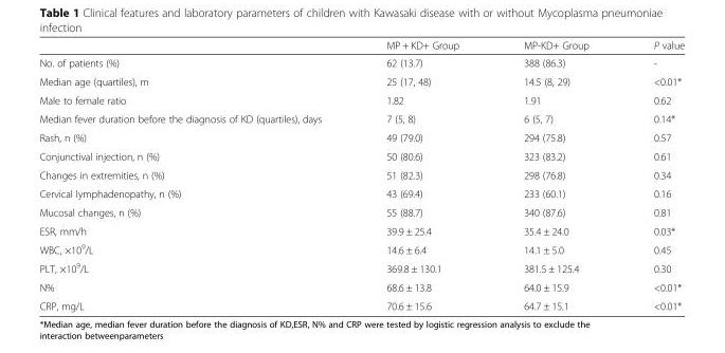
<table><thead><tr><td></td><td>MP + KD+ Group</td><td>MP-KD+ Group</td><td>P value</td></tr></thead><tbody><tr><td>No. of patients (%)</td><td>62 (13.7)</td><td>388 (86.3)</td><td>-</td></tr><tr><td>Median age (quartiles), m</td><td>25 (17, 48)</td><td>14.5 (8, 29)</td><td>&lt;0.01*</td></tr><tr><td>Male to female ratio</td><td>1.82</td><td>1.91</td><td>0.62</td></tr><tr><td>Median fever duration before the diagnosis of KD (quartiles), days</td><td>7 (5, 8)</td><td>6 (5, 7)</td><td>0.14*</td></tr><tr><td>Rash, n (%)</td><td>49 (79.0)</td><td>294 (75.8)</td><td>0.57</td></tr><tr><td>Conjunctival injection, n (%)</td><td>50 (80.6)</td><td>323 (83.2)</td><td>0.61</td></tr><tr><td>Changes in extremities, n (%)</td><td>51 (82.3)</td><td>298 (76.8)</td><td>0.34</td></tr><tr><td>Cervical lymphadenopathy, n (%)</td><td>43 (69.4)</td><td>233 (60.1)</td><td>0.16</td></tr><tr><td>Mucosal changes, n (%)</td><td>55 (88.7)</td><td>340 (87.6)</td><td>0.81</td></tr><tr><td>ESR, mm/h</td><td>39.9 ± 25.4</td><td>35.4 ± 24.0</td><td>0.03*</td></tr><tr><td>WBC, ×10<sup>9</sup>/L</td><td>14.6 ± 6.4</td><td>14.1 ± 5.0</td><td>0.45</td></tr><tr><td>PLT, ×10<sup>9</sup>/L</td><td>369.8 ± 130.1</td><td>381.5 ± 125.4</td><td>0.30</td></tr><tr><td>N%</td><td>68.6 ± 13.8</td><td>64.0 ± 15.9</td><td>&lt;0.01*</td></tr><tr><td>CRP, mg/L</td><td>70.6 ± 15.6</td><td>64.7 ± 15.1</td><td>&lt;0.01*</td></tr></tbody></table>